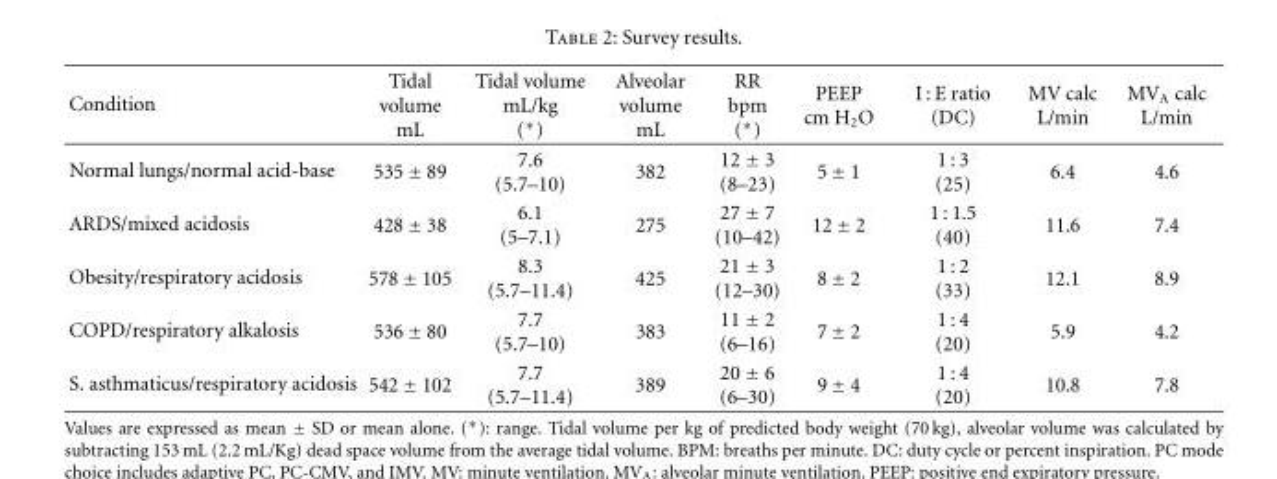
<table><thead><tr><td>Condition</td><td>Tidal volume mL</td><td>Tidal volume mL/kg (∗)</td><td>Alveolar volume mL</td><td>RR bpm (∗)</td><td>PEEP cm H<sub>2</sub>O</td><td>I : E ratio (DC)</td><td>MV calc L/min</td><td>MV<sub>A</sub> calc L/min</td></tr></thead><tbody><tr><td>Normal lungs/normal acid-base</td><td>535 ± 89</td><td>7.6 (5.7–10)</td><td>382</td><td>12 ± 3 (8–23)</td><td>5 ± 1</td><td>1 : 3 (25)</td><td>6.4</td><td>4.6</td></tr><tr><td>ARDS/mixed acidosis</td><td>428 ± 38</td><td>6.1 (5–7.1)</td><td>275</td><td>27 ± 7 (10–42)</td><td>12 ± 2</td><td>1 : 1.5 (40)</td><td>11.6</td><td>7.4</td></tr><tr><td>Obesity/respiratory acidosis</td><td>578 ± 105</td><td>8.3 (5.7–11.4)</td><td>425</td><td>21 ± 3 (12–30)</td><td>8 ± 2</td><td>1 : 2 (33)</td><td>12.1</td><td>8.9</td></tr><tr><td>COPD/respiratory alkalosis</td><td>536 ± 80</td><td>7.7 (5.7–10)</td><td>383</td><td>11 ± 2 (6–16)</td><td>7 ± 2</td><td>1 : 4 (20)</td><td>5.9</td><td>4.2</td></tr><tr><td>S. asthmaticus/respiratory acidosis</td><td>542 ± 102</td><td>7.7 (5.7–11.4)</td><td>389</td><td>20 ± 6 (6–30)</td><td>9 ± 4</td><td>1 : 4 (20)</td><td>10.8</td><td>7.8</td></tr></tbody></table>